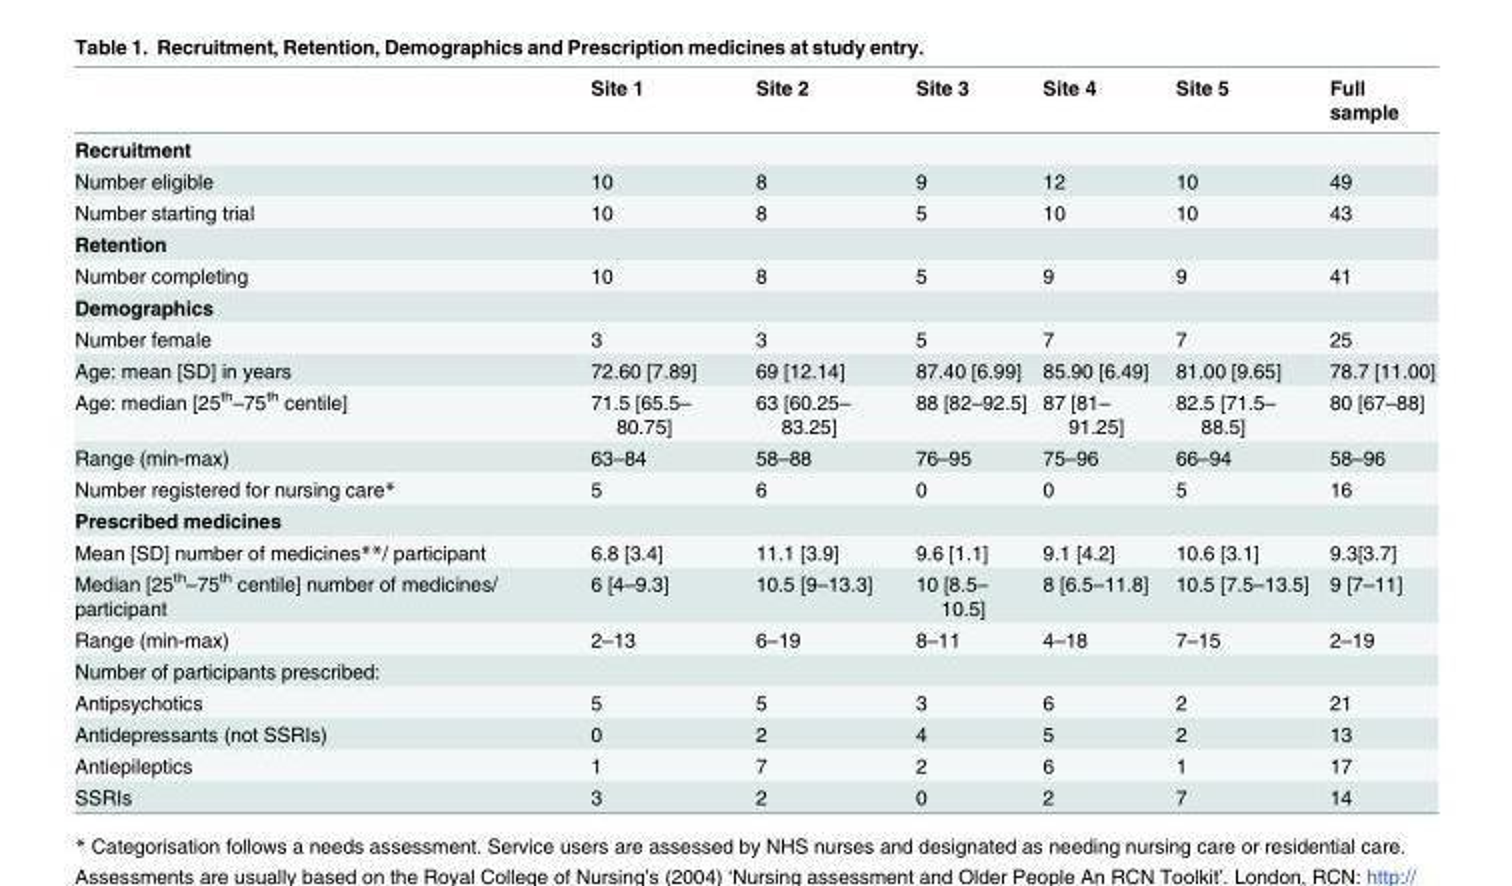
<table><thead><tr><td></td><td>Site 1</td><td>Site 2</td><td>Site 3</td><td>Site 4</td><td>Site 5</td><td>Full sample</td></tr></thead><tbody><tr><td colspan="7">Recruitment</td></tr><tr><td>Number eligible</td><td>10</td><td>8</td><td>9</td><td>12</td><td>10</td><td>49</td></tr><tr><td>Number starting trial</td><td>10</td><td>8</td><td>5</td><td>10</td><td>10</td><td>43</td></tr><tr><td colspan="7">Retention</td></tr><tr><td>Number completing</td><td>10</td><td>8</td><td>5</td><td>9</td><td>9</td><td>41</td></tr><tr><td colspan="7">Demographics</td></tr><tr><td>Number female</td><td>3</td><td>3</td><td>5</td><td>7</td><td>7</td><td>25</td></tr><tr><td>Age: mean [SD] in years</td><td>72.60 [7.89]</td><td>69 [12.14]</td><td>87.40 [6.99]</td><td>85.90 [6.49]</td><td>81.00 [9.65]</td><td>78.7 [11.00]</td></tr><tr><td>Age: median [25<sup>th</sup>–75<sup>th</sup> centile]</td><td>71.5 [65.5– 80.75]</td><td>63 [60.25– 83.25]</td><td>88 [82–92.5]</td><td>87 [81– 91.25]</td><td>82.5 [71.5– 88.5]</td><td>80 [67–88]</td></tr><tr><td>Range (min-max)</td><td>63–84</td><td>58–88</td><td>76–95</td><td>75–96</td><td>66–94</td><td>58–96</td></tr><tr><td>Number registered for nursing care*</td><td>5</td><td>6</td><td>0</td><td>0</td><td>5</td><td>16</td></tr><tr><td colspan="7">Prescribed medicines</td></tr><tr><td>Mean [SD] number of medicines**/ participant</td><td>6.8 [3.4]</td><td>11.1 [3.9]</td><td>9.6 [1.1]</td><td>9.1 [4.2]</td><td>10.6 [3.1]</td><td>9.3[3.7]</td></tr><tr><td>Median [25<sup>th</sup>–75<sup>th</sup> centile] number of medicines/ participant</td><td>6 [4–9.3]</td><td>10.5 [9–13.3]</td><td>10 [8.5– 10.5]</td><td>8 [6.5–11.8]</td><td>10.5 [7.5–13.5]</td><td>9 [7–11]</td></tr><tr><td>Range (min-max)</td><td>2–13</td><td>6–19</td><td>8–11</td><td>4–18</td><td>7–15</td><td>2–19</td></tr><tr><td colspan="7">Number of participants prescribed:</td></tr><tr><td>Antipsychotics</td><td>5</td><td>5</td><td>3</td><td>6</td><td>2</td><td>21</td></tr><tr><td>Antidepressants (not SSRIs)</td><td>0</td><td>2</td><td>4</td><td>5</td><td>2</td><td>13</td></tr><tr><td>Antiepileptics</td><td>1</td><td>7</td><td>2</td><td>6</td><td>1</td><td>17</td></tr><tr><td>SSRIs</td><td>3</td><td>2</td><td>0</td><td>2</td><td>7</td><td>14</td></tr></tbody></table>